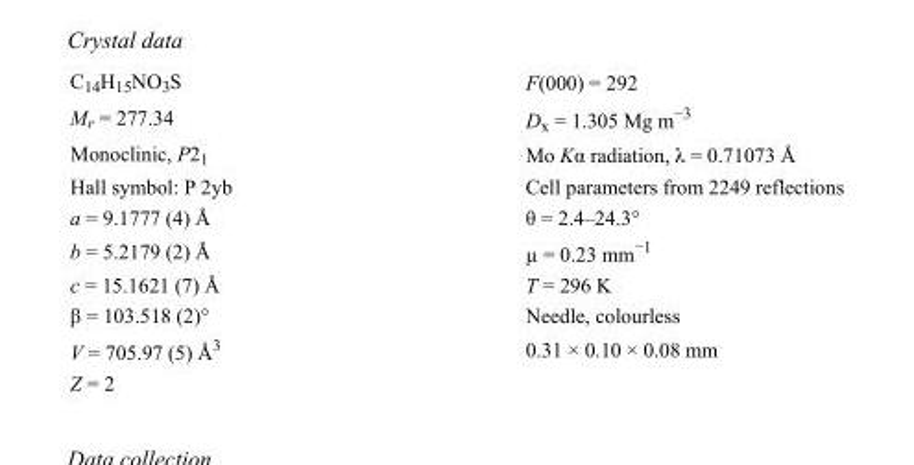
<table><tbody><tr><td>C<sub>14</sub>H<sub>15</sub>NO<sub>3</sub>S</td><td>F(000) = 292</td></tr><tr><td>M<sub>r</sub> = 277.34</td><td>D<sub>x</sub> = 1.305 Mg m<sup>−3</sup></td></tr><tr><td>Monoclinic, P2<sub>1</sub></td><td>Mo Kα radiation, λ = 0.71073 Å</td></tr><tr><td>Hall symbol: P 2yb</td><td>Cell parameters from 2249 reflections</td></tr><tr><td>a = 9.1777 (4) Å</td><td>θ = 2.4–24.3°</td></tr><tr><td>b = 5.2179 (2) Å</td><td>µ = 0.23 mm<sup>−1</sup></td></tr><tr><td>c = 15.1621 (7) Å</td><td>T = 296 K</td></tr><tr><td>β = 103.518 (2)°</td><td>Needle, colourless</td></tr><tr><td>V = 705.97 (5) Å<sup>3</sup></td><td>0.31 × 0.10 × 0.08 mm</td></tr><tr><td>Z = 2</td><td></td></tr></tbody></table>